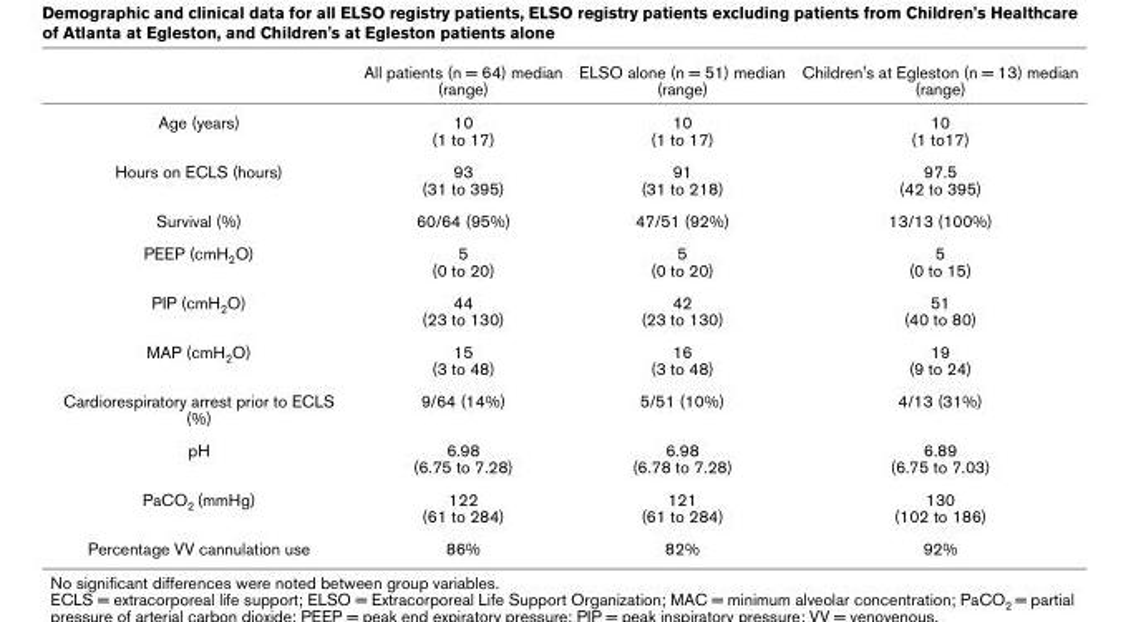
<table><thead><tr><td></td><td>All patients (n = 64) median (range)</td><td>ELSO alone (n = 51) median (range)</td><td>Children&#x27;s at Egleston (n = 13) median (range)</td></tr></thead><tbody><tr><td>Age (years)</td><td>10 (1 to 17)</td><td>10 (1 to 17)</td><td>10 (1 to17)</td></tr><tr><td>Hours on ECLS (hours)</td><td>93 (31 to 395)</td><td>91 (31 to 218)</td><td>97.5 (42 to 395)</td></tr><tr><td>Survival (%)</td><td>60/64 (95%)</td><td>47/51 (92%)</td><td>13/13 (100%)</td></tr><tr><td>PEEP (cmH<sub>2</sub>O)</td><td>5 (0 to 20)</td><td>5 (0 to 20)</td><td>5 (0 to 15)</td></tr><tr><td>PIP (cmH<sub>2</sub>O)</td><td>44 (23 to 130)</td><td>42 (23 to 130)</td><td>51 (40 to 80)</td></tr><tr><td>MAP (cmH<sub>2</sub>O)</td><td>15 (3 to 48)</td><td>16 (3 to 48)</td><td>19 (9 to 24)</td></tr><tr><td>Cardiorespiratory arrest prior to ECLS (%)</td><td>9/64 (14%)</td><td>5/51 (10%)</td><td>4/13 (31%)</td></tr><tr><td>pH</td><td>6.98 (6.75 to 7.28)</td><td>6.98 (6.78 to 7.28)</td><td>6.89 (6.75 to 7.03)</td></tr><tr><td>PaCO<sub>2</sub> (mmHg)</td><td>122 (61 to 284)</td><td>121 (61 to 284)</td><td>130 (102 to 186)</td></tr><tr><td>Percentage VV cannulation use</td><td>86%</td><td>82%</td><td>92%</td></tr></tbody></table>